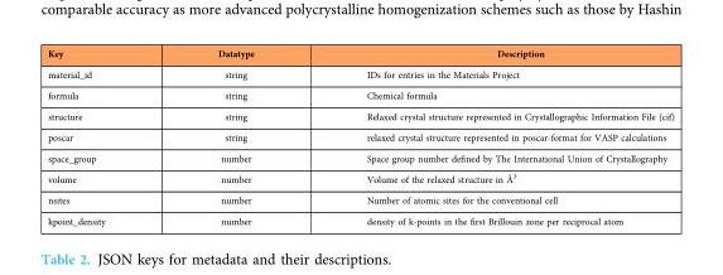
<table><thead><tr><td>Key</td><td>Datatype</td><td>Description</td></tr></thead><tbody><tr><td>material_id</td><td>string</td><td>IDs for entries in the Materials Project</td></tr><tr><td>formula</td><td>string</td><td>Chemical formula</td></tr><tr><td>structure</td><td>string</td><td>Relaxed crystal structure represented in Crystallographic Information File (cif)</td></tr><tr><td>poscar</td><td>string</td><td>relaxed crystal structure represented in poscar-format for VASP calculations</td></tr><tr><td>space_group</td><td>number</td><td>Space group number defined by The International Union of Crystallography</td></tr><tr><td>volume</td><td>number</td><td>Volume of the relaxed structure in Å<sup>3</sup></td></tr><tr><td>nsites</td><td>number</td><td>Number of atomic sites for the conventional cell</td></tr><tr><td>kpoint_density</td><td>number</td><td>density of k-points in the first Brillouin zone per reciprocal atom</td></tr></tbody></table>